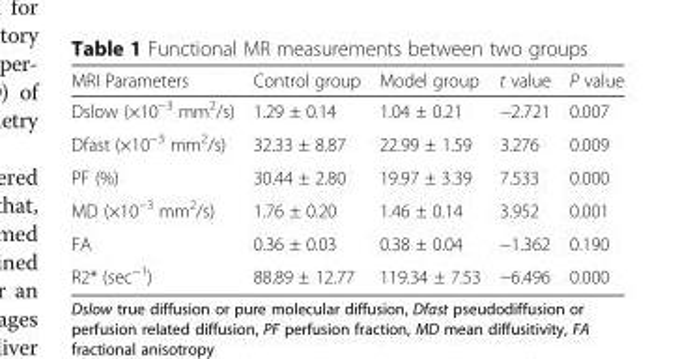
<table><thead><tr><td>MRI Parameters</td><td>Control group</td><td>Model group</td><td>t value</td><td>P value</td></tr></thead><tbody><tr><td>Dslow (×10<sup>−3</sup> mm<sup>2</sup>/s)</td><td>1.29 ± 0.14</td><td>1.04 ± 0.21</td><td>−2.721</td><td>0.007</td></tr><tr><td>Dfast (×10<sup>−3</sup> mm<sup>2</sup>/s)</td><td>32.33 ± 8.87</td><td>22.99 ± 1.59</td><td>3.276</td><td>0.009</td></tr><tr><td>PF (%)</td><td>30.44 ± 2.80</td><td>19.97 ± 3.39</td><td>7.533</td><td>0.000</td></tr><tr><td>MD (×10<sup>−3</sup> mm<sup>2</sup>/s)</td><td>1.76 ± 0.20</td><td>1.46 ± 0.14</td><td>3.952</td><td>0.001</td></tr><tr><td>FA</td><td>0.36 ± 0.03</td><td>0.38 ± 0.04</td><td>−1.362</td><td>0.190</td></tr><tr><td>R2* (sec<sup>−1</sup>)</td><td>88.89 ± 12.77</td><td>119.34 ± 7.53</td><td>−6.496</td><td>0.000</td></tr></tbody></table>